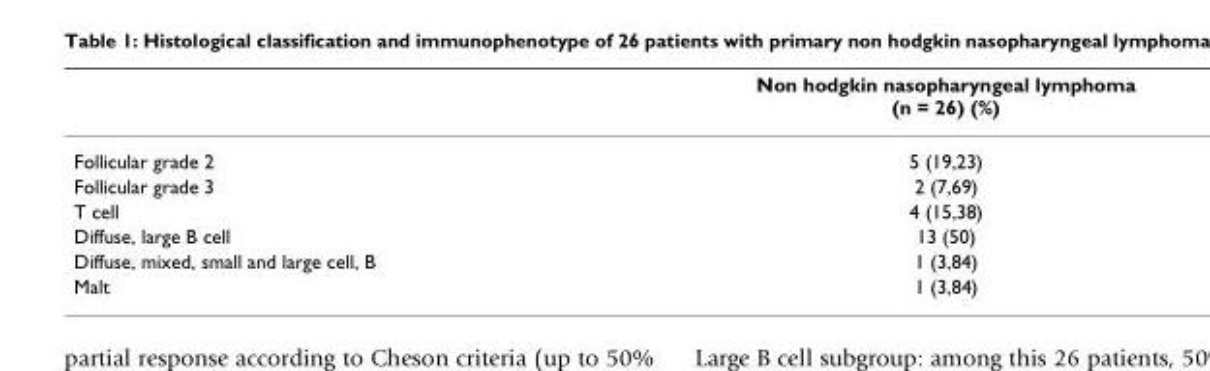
<table><thead><tr><td></td><td>Non hodgkin nasopharyngeal lymphoma (n = 26) (%)</td></tr></thead><tbody><tr><td>Follicular grade 2</td><td>5 (19,23)</td></tr><tr><td>Follicular grade 3</td><td>2 (7,69)</td></tr><tr><td>T cell</td><td>4 (15,38)</td></tr><tr><td>Diffuse, large B cell</td><td>13 (50)</td></tr><tr><td>Diffuse, mixed, small and large cell, B</td><td>1 (3,84)</td></tr><tr><td>Malt</td><td>1 (3,84)</td></tr></tbody></table>